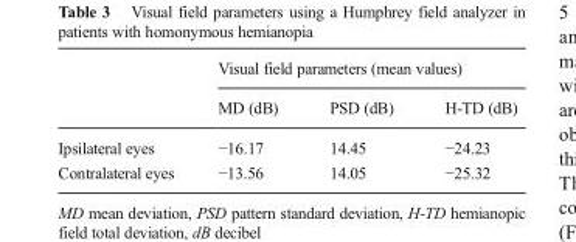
<table><thead><tr><td rowspan="2"></td><td colspan="3">Visual field parameters (mean values)</td></tr><tr><td>MD (dB)</td><td>PSD (dB)</td><td>H-TD (dB)</td></tr></thead><tbody><tr><td>Ipsilateral eyes</td><td>−16.17</td><td>14.45</td><td>−24.23</td></tr><tr><td>Contralateral eyes</td><td>−13.56</td><td>14.05</td><td>−25.32</td></tr></tbody></table>